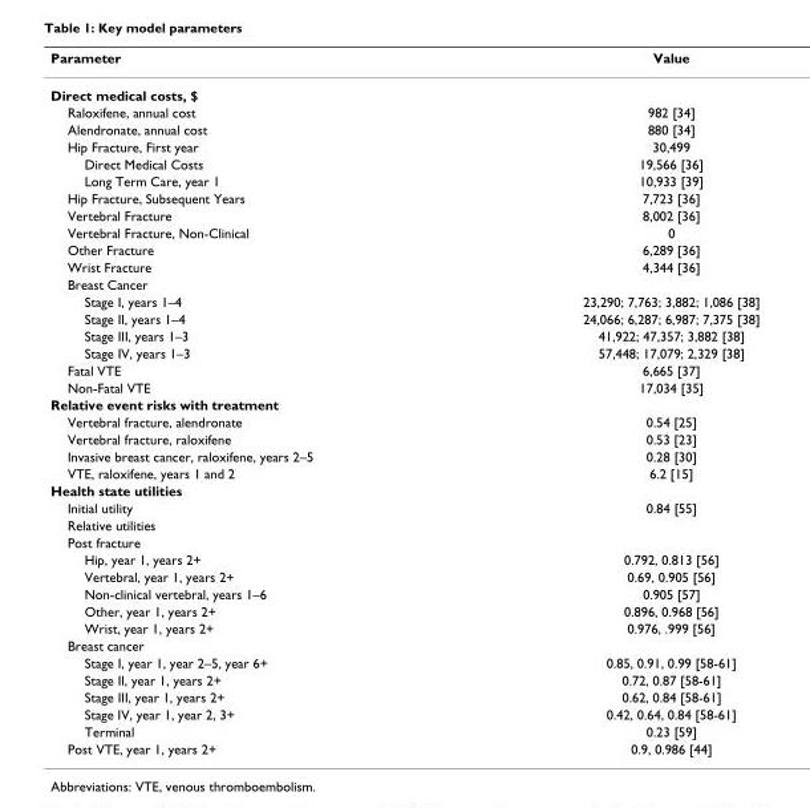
<table><thead><tr><td>Parameter</td><td>Value</td></tr></thead><tbody><tr><td colspan="2">Direct medical costs, $</td></tr><tr><td>Raloxifene, annual cost</td><td>982 [34]</td></tr><tr><td>Alendronate, annual cost</td><td>880 [34]</td></tr><tr><td>Hip Fracture, First year</td><td>30,499</td></tr><tr><td>Direct Medical Costs</td><td>19,566 [36]</td></tr><tr><td>Long Term Care, year 1</td><td>10,933 [39]</td></tr><tr><td>Hip Fracture, Subsequent Years</td><td>7,723 [36]</td></tr><tr><td>Vertebral Fracture</td><td>8,002 [36]</td></tr><tr><td>Vertebral Fracture, Non-Clinical</td><td>0</td></tr><tr><td>Other Fracture</td><td>6,289 [36]</td></tr><tr><td>Wrist Fracture</td><td>4,344 [36]</td></tr><tr><td colspan="2">Breast Cancer</td></tr><tr><td>Stage I, years 1–4</td><td>23,290; 7,763; 3,882; 1,086 [38]</td></tr><tr><td>Stage II, years 1–4</td><td>24,066; 6,287; 6,987; 7,375 [38]</td></tr><tr><td>Stage III, years 1–3</td><td>41,922; 47,357; 3,882 [38]</td></tr><tr><td>Stage IV, years 1–3</td><td>57,448; 17,079; 2,329 [38]</td></tr><tr><td>Fatal VTE</td><td>6,665 [37]</td></tr><tr><td>Non-Fatal VTE</td><td>17,034 [35]</td></tr><tr><td colspan="2">Relative event risks with treatment</td></tr><tr><td>Vertebral fracture, alendronate</td><td>0.54 [25]</td></tr><tr><td>Vertebral fracture, raloxifene</td><td>0.53 [23]</td></tr><tr><td>Invasive breast cancer, raloxifene, years 2–5</td><td>0.28 [30]</td></tr><tr><td>VTE, raloxifene, years 1 and 2</td><td>6.2 [15]</td></tr><tr><td colspan="2">Health state utilities</td></tr><tr><td>Initial utility</td><td>0.84 [55]</td></tr><tr><td colspan="2">Relative utilities</td></tr><tr><td colspan="2">Post fracture</td></tr><tr><td>Hip, year 1, years 2+</td><td>0.792, 0.813 [56]</td></tr><tr><td>Vertebral, year 1, years 2+</td><td>0.69, 0.905 [56]</td></tr><tr><td>Non-clinical vertebral, years 1–6</td><td>0.905 [57]</td></tr><tr><td>Other, year 1, years 2+</td><td>0.896, 0.968 [56]</td></tr><tr><td>Wrist, year 1, years 2+</td><td>0.976, .999 [56]</td></tr><tr><td colspan="2">Breast cancer</td></tr><tr><td>Stage I, year 1, year 2–5, year 6+</td><td>0.85, 0.91, 0.99 [58-61]</td></tr><tr><td>Stage II, year 1, years 2+</td><td>0.72, 0.87 [58-61]</td></tr><tr><td>Stage III, year 1, years 2+</td><td>0.62, 0.84 [58-61]</td></tr><tr><td>Stage IV, year 1, year 2, 3+</td><td>0.42, 0.64, 0.84 [58-61]</td></tr><tr><td>Terminal</td><td>0.23 [59]</td></tr><tr><td>Post VTE, year 1, years 2+</td><td>0.9, 0.986 [44]</td></tr></tbody></table>